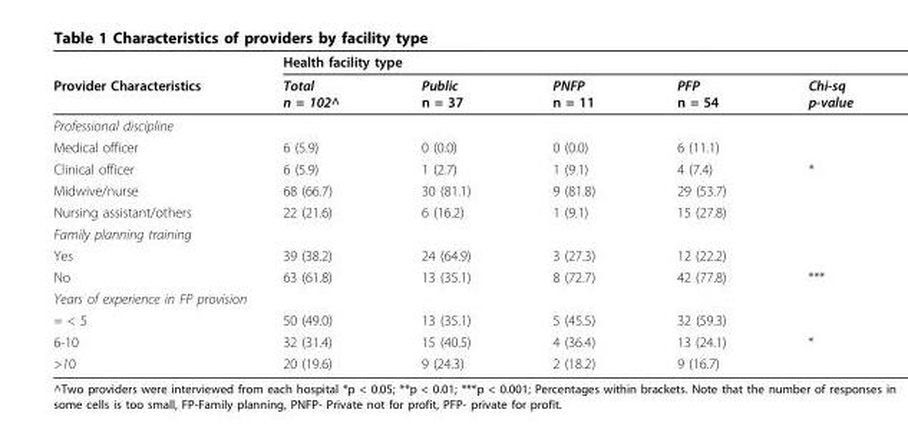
<table><thead><tr><td rowspan="2">Provider Characteristics</td><td colspan="5">Health facility type</td></tr><tr><td>Total n = 102^</td><td>Public n = 37</td><td>PNFP n = 11</td><td>PFP n = 54</td><td>Chi-sq p-value</td></tr></thead><tbody><tr><td colspan="6">Professional discipline</td></tr><tr><td>Medical officer</td><td>6 (5.9)</td><td>0 (0.0)</td><td>0 (0.0)</td><td>6 (11.1)</td><td></td></tr><tr><td>Clinical officer</td><td>6 (5.9)</td><td>1 (2.7)</td><td>1 (9.1)</td><td>4 (7.4)</td><td>*</td></tr><tr><td>Midwive/nurse</td><td>68 (66.7)</td><td>30 (81.1)</td><td>9 (81.8)</td><td>29 (53.7)</td><td></td></tr><tr><td>Nursing assistant/others</td><td>22 (21.6)</td><td>6 (16.2)</td><td>1 (9.1)</td><td>15 (27.8)</td><td></td></tr><tr><td colspan="6">Family planning training</td></tr><tr><td>Yes</td><td>39 (38.2)</td><td>24 (64.9)</td><td>3 (27.3)</td><td>12 (22.2)</td><td></td></tr><tr><td>No</td><td>63 (61.8)</td><td>13 (35.1)</td><td>8 (72.7)</td><td>42 (77.8)</td><td>***</td></tr><tr><td colspan="6">Years of experience in FP provision</td></tr><tr><td>= &lt; 5</td><td>50 (49.0)</td><td>13 (35.1)</td><td>5 (45.5)</td><td>32 (59.3)</td><td></td></tr><tr><td>6-10</td><td>32 (31.4)</td><td>15 (40.5)</td><td>4 (36.4)</td><td>13 (24.1)</td><td>*</td></tr><tr><td>&gt;10</td><td>20 (19.6)</td><td>9 (24.3)</td><td>2 (18.2)</td><td>9 (16.7)</td><td></td></tr></tbody></table>